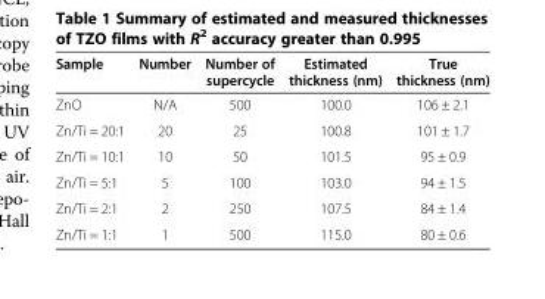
<table><thead><tr><td>Sample</td><td>Number</td><td>Number of supercycle</td><td>Estimated thickness (nm)</td><td>True thickness (nm)</td></tr></thead><tbody><tr><td>ZnO</td><td>N/A</td><td>500</td><td>100.0</td><td>106 ± 2.1</td></tr><tr><td>Zn/Ti = 20:1</td><td>20</td><td>25</td><td>100.8</td><td>101 ± 1.7</td></tr><tr><td>Zn/Ti = 10:1</td><td>10</td><td>50</td><td>101.5</td><td>95 ± 0.9</td></tr><tr><td>Zn/Ti = 5:1</td><td>5</td><td>100</td><td>103.0</td><td>94 ± 1.5</td></tr><tr><td>Zn/Ti = 2:1</td><td>2</td><td>250</td><td>107.5</td><td>84 ± 1.4</td></tr><tr><td>Zn/Ti = 1:1</td><td>1</td><td>500</td><td>115.0</td><td>80 ± 0.6</td></tr></tbody></table>